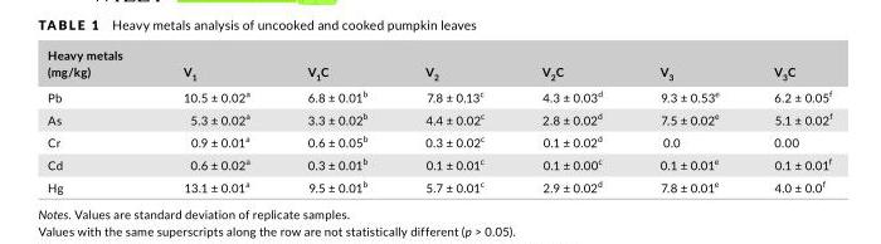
<table><thead><tr><td>Heavy metals (mg/kg)</td><td>V<sub>1</sub></td><td>V<sub>1</sub>C</td><td>V<sub>2</sub></td><td>V<sub>2</sub>C</td><td>V<sub>3</sub></td><td>V<sub>3</sub>C</td></tr></thead><tbody><tr><td>Pb</td><td>10.5 ± 0.02<sup>a</sup></td><td>6.8 ± 0.01<sup>b</sup></td><td>7.8 ± 0.13<sup>c</sup></td><td>4.3 ± 0.03<sup>d</sup></td><td>9.3 ± 0.53<sup>e</sup></td><td>6.2 ± 0.05<sup>f</sup></td></tr><tr><td>As</td><td>5.3 ± 0.02<sup>a</sup></td><td>3.3 ± 0.02<sup>b</sup></td><td>4.4 ± 0.02<sup>c</sup></td><td>2.8 ± 0.02<sup>d</sup></td><td>7.5 ± 0.02<sup>e</sup></td><td>5.1 ± 0.02<sup>f</sup></td></tr><tr><td>Cr</td><td>0.9 ± 0.01<sup>a</sup></td><td>0.6 ± 0.05<sup>b</sup></td><td>0.3 ± 0.02<sup>c</sup></td><td>0.1 ± 0.02<sup>d</sup></td><td>0.0</td><td>0.00</td></tr><tr><td>Cd</td><td>0.6 ± 0.02<sup>a</sup></td><td>0.3 ± 0.01<sup>b</sup></td><td>0.1 ± 0.01<sup>c</sup></td><td>0.1 ± 0.00<sup>c</sup></td><td>0.1 ± 0.01<sup>e</sup></td><td>0.1 ± 0.01<sup>f</sup></td></tr><tr><td>Hg</td><td>13.1 ± 0.01<sup>a</sup></td><td>9.5 ± 0.01<sup>b</sup></td><td>5.7 ± 0.01<sup>c</sup></td><td>2.9 ± 0.02<sup>d</sup></td><td>7.8 ± 0.01<sup>e</sup></td><td>4.0 ± 0.0<sup>f</sup></td></tr></tbody></table>